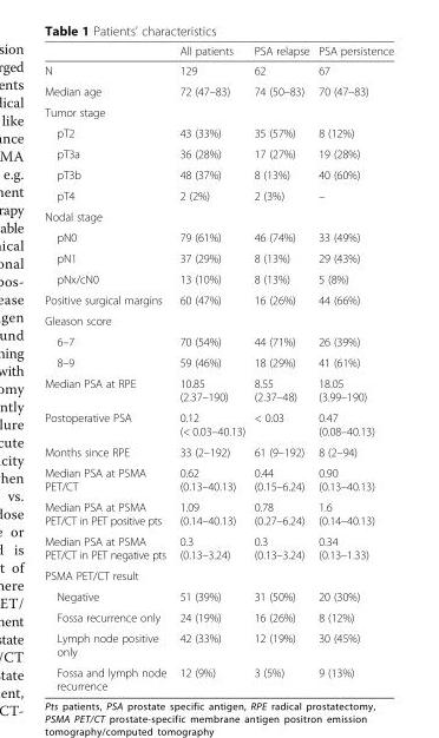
<table><thead><tr><td></td><td>All patients</td><td>PSA relapse</td><td>PSA persistence</td></tr></thead><tbody><tr><td>N</td><td>129</td><td>62</td><td>67</td></tr><tr><td>Median age</td><td>72 (47–83)</td><td>74 (50–83)</td><td>70 (47–83)</td></tr><tr><td colspan="4">Tumor stage</td></tr><tr><td>pT2</td><td>43 (33%)</td><td>35 (57%)</td><td>8 (12%)</td></tr><tr><td>pT3a</td><td>36 (28%)</td><td>17 (27%)</td><td>19 (28%)</td></tr><tr><td>pT3b</td><td>48 (37%)</td><td>8 (13%)</td><td>40 (60%)</td></tr><tr><td>pT4</td><td>2 (2%)</td><td>2 (3%)</td><td>–</td></tr><tr><td colspan="4">Nodal stage</td></tr><tr><td>pN0</td><td>79 (61%)</td><td>46 (74%)</td><td>33 (49%)</td></tr><tr><td>pN1</td><td>37 (29%)</td><td>8 (13%)</td><td>29 (43%)</td></tr><tr><td>pNx/cN0</td><td>13 (10%)</td><td>8 (13%)</td><td>5 (8%)</td></tr><tr><td>Positive surgical margins</td><td>60 (47%)</td><td>16 (26%)</td><td>44 (66%)</td></tr><tr><td colspan="4">Gleason score</td></tr><tr><td>6–7</td><td>70 (54%)</td><td>44 (71%)</td><td>26 (39%)</td></tr><tr><td>8–9</td><td>59 (46%)</td><td>18 (29%)</td><td>41 (61%)</td></tr><tr><td>Median PSA at RPE</td><td>10.85 (2.37–190)</td><td>8.55 (2.37–48)</td><td>18.05 (3.99–190)</td></tr><tr><td>Postoperative PSA</td><td>0.12 (&lt; 0.03–40.13)</td><td>&lt; 0.03</td><td>0.47 (0.08–40.13)</td></tr><tr><td>Months since RPE</td><td>33 (2–192)</td><td>61 (9–192)</td><td>8 (2–94)</td></tr><tr><td>Median PSA at PSMA PET/CT</td><td>0.62 (0.13–40.13)</td><td>0.44 (0.15–6.24)</td><td>0.90 (0.13–40.13)</td></tr><tr><td>Median PSA at PSMA PET/CT in PET positive pts</td><td>1.09 (0.14–40.13)</td><td>0.78 (0.27–6.24)</td><td>1.6 (0.14–40.13)</td></tr><tr><td>Median PSA at PSMA PET/CT in PET negative pts</td><td>0.3 (0.13–3.24)</td><td>0.3 (0.13–3.24)</td><td>0.34 (0.13–1.33)</td></tr><tr><td colspan="4">PSMA PET/CT result</td></tr><tr><td>Negative</td><td>51 (39%)</td><td>31 (50%)</td><td>20 (30%)</td></tr><tr><td>Fossa recurrence only</td><td>24 (19%)</td><td>16 (26%)</td><td>8 (12%)</td></tr><tr><td>Lymph node positive only</td><td>42 (33%)</td><td>12 (19%)</td><td>30 (45%)</td></tr><tr><td>Fossa and lymph node recurrence</td><td>12 (9%)</td><td>3 (5%)</td><td>9 (13%)</td></tr></tbody></table>